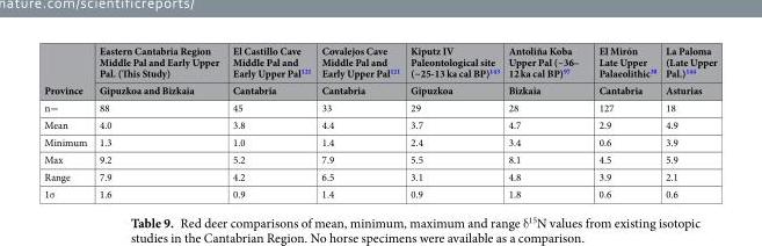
<table><thead><tr><td rowspan="2">Province</td><td rowspan="2">Eastern Cantabria Region Middle Pal and Early Upper Pal. (This Study) Gipuzkoa and Bizkaia</td><td rowspan="2">El Castillo Cave Middle Pal and Early Upper Pal<sup>121</sup> Cantabria</td><td rowspan="2">Covalejos Cave Middle Pal and Early Upper Pal<sup>121</sup> Cantabria</td><td rowspan="2">Kiputz IV Paleontological site (~25-13 ka cal BP)<sup>143</sup> Gipuzkoa</td><td rowspan="2">Antoliña Koba Upper Pal (~36– 12 ka cal BP)<sup>97</sup> Bizkaia</td><td rowspan="2">El Mirón Late Upper Palaeolithic<sup>30</sup> Cantabria</td><td rowspan="2">La Paloma (Late Upper Pal.)<sup>144</sup> Asturias</td></tr><tr></tr></thead><tbody><tr><td>n=</td><td>88</td><td>45</td><td>33</td><td>29</td><td>28</td><td>127</td><td>18</td></tr><tr><td>Mean</td><td>4.0</td><td>3.8</td><td>4.4</td><td>3.7</td><td>4.7</td><td>2.9</td><td>4.9</td></tr><tr><td>Minimum</td><td>1.3</td><td>1.0</td><td>1.4</td><td>2.4</td><td>3.4</td><td>0.6</td><td>3.9</td></tr><tr><td>Max</td><td>9.2</td><td>5.2</td><td>7.9</td><td>5.5</td><td>8.1</td><td>4.5</td><td>5.9</td></tr><tr><td>Range</td><td>7.9</td><td>4.2</td><td>6.5</td><td>3.1</td><td>4.8</td><td>3.9</td><td>2.1</td></tr><tr><td>1σ</td><td>1.6</td><td>0.9</td><td>1.4</td><td>0.9</td><td>1.8</td><td>0.6</td><td>0.6</td></tr></tbody></table>